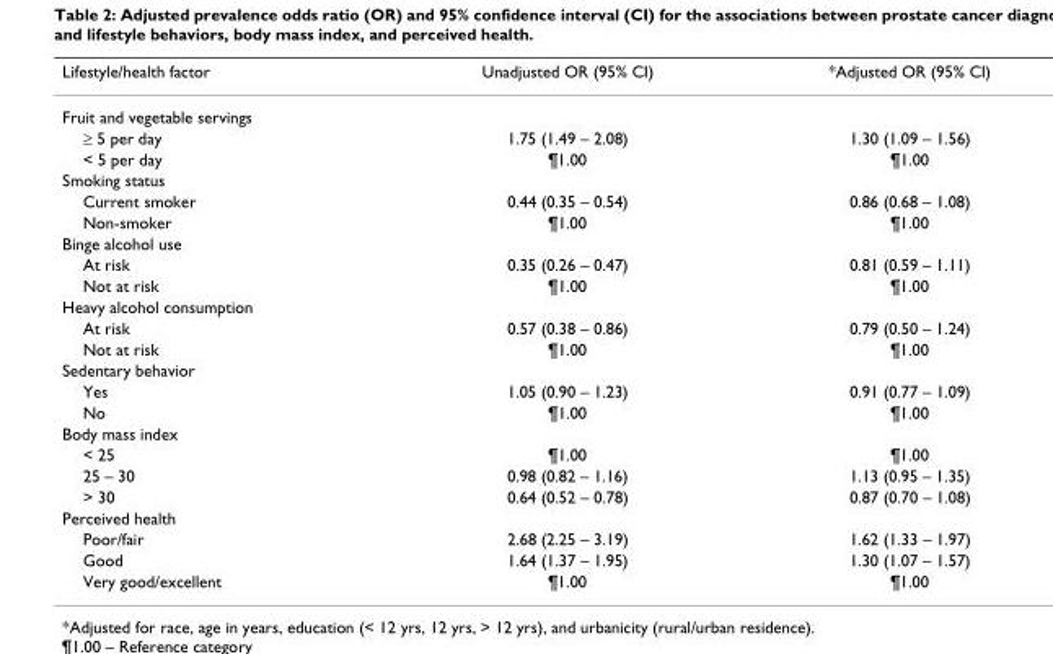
<table><thead><tr><td>Lifestyle/health factor</td><td>Unadjusted OR (95% CI)</td><td>*Adjusted OR (95% CI)</td></tr></thead><tbody><tr><td colspan="3">Fruit and vegetable servings</td></tr><tr><td>≥ 5 per day</td><td>1.75 (1.49 – 2.08)</td><td>1.30 (1.09 – 1.56)</td></tr><tr><td>&lt; 5 per day</td><td>¶1.00</td><td>¶1.00</td></tr><tr><td colspan="3">Smoking status</td></tr><tr><td>Current smoker</td><td>0.44 (0.35 – 0.54)</td><td>0.86 (0.68 – 1.08)</td></tr><tr><td>Non-smoker</td><td>¶1.00</td><td>¶1.00</td></tr><tr><td colspan="3">Binge alcohol use</td></tr><tr><td>At risk</td><td>0.35 (0.26 – 0.47)</td><td>0.81 (0.59 – 1.11)</td></tr><tr><td>Not at risk</td><td>¶1.00</td><td>¶1.00</td></tr><tr><td colspan="3">Heavy alcohol consumption</td></tr><tr><td>At risk</td><td>0.57 (0.38 – 0.86)</td><td>0.79 (0.50 – 1.24)</td></tr><tr><td>Not at risk</td><td>¶1.00</td><td>¶1.00</td></tr><tr><td colspan="3">Sedentary behavior</td></tr><tr><td>Yes</td><td>1.05 (0.90 – 1.23)</td><td>0.91 (0.77 – 1.09)</td></tr><tr><td>No</td><td>¶1.00</td><td>¶1.00</td></tr><tr><td colspan="3">Body mass index</td></tr><tr><td>&lt; 25</td><td>¶1.00</td><td>¶1.00</td></tr><tr><td>25 – 30</td><td>0.98 (0.82 – 1.16)</td><td>1.13 (0.95 – 1.35)</td></tr><tr><td>&gt; 30</td><td>0.64 (0.52 – 0.78)</td><td>0.87 (0.70 – 1.08)</td></tr><tr><td colspan="3">Perceived health</td></tr><tr><td>Poor/fair</td><td>2.68 (2.25 – 3.19)</td><td>1.62 (1.33 – 1.97)</td></tr><tr><td>Good</td><td>1.64 (1.37 – 1.95)</td><td>1.30 (1.07 – 1.57)</td></tr><tr><td>Very good/excellent</td><td>¶1.00</td><td>¶1.00</td></tr></tbody></table>